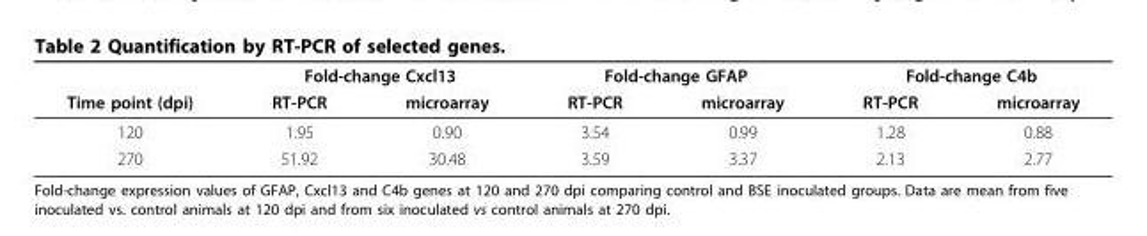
<table><thead><tr><td rowspan="2">Time point (dpi)</td><td colspan="2">Fold-change Cxcl13</td><td colspan="2">Fold-change GFAP</td><td colspan="2">Fold-change C4b</td></tr><tr><td>RT-PCR</td><td>microarray</td><td>RT-PCR</td><td>microarray</td><td>RT-PCR</td><td>microarray</td></tr></thead><tbody><tr><td>120</td><td>1.95</td><td>0.90</td><td>3.54</td><td>0.99</td><td>1.28</td><td>0.88</td></tr><tr><td>270</td><td>51.92</td><td>30.48</td><td>3.59</td><td>3.37</td><td>2.13</td><td>2.77</td></tr></tbody></table>